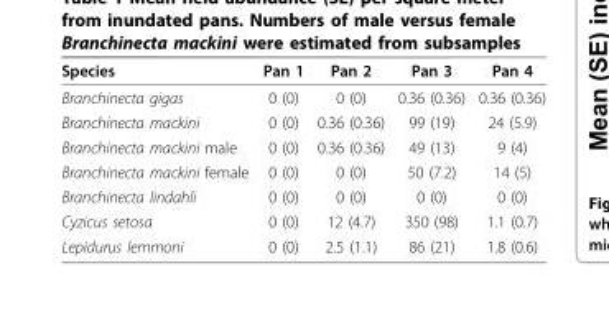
<table><thead><tr><td>Species</td><td>Pan 1</td><td>Pan 2</td><td>Pan 3</td><td>Pan 4</td></tr></thead><tbody><tr><td>Branchinecta gigas</td><td>0 (0)</td><td>0 (0)</td><td>0.36 (0.36)</td><td>0.36 (0.36)</td></tr><tr><td>Branchinecta mackini</td><td>0 (0)</td><td>0.36 (0.36)</td><td>99 (19)</td><td>24 (5.9)</td></tr><tr><td>Branchinecta mackini male</td><td>0 (0)</td><td>0.36 (0.36)</td><td>49 (13)</td><td>9 (4)</td></tr><tr><td>Branchinecta mackini female</td><td>0 (0)</td><td>0 (0)</td><td>50 (7.2)</td><td>14 (5)</td></tr><tr><td>Branchinecta lindahli</td><td>0 (0)</td><td>0 (0)</td><td>0 (0)</td><td>0 (0)</td></tr><tr><td>Cyzicus setosa</td><td>0 (0)</td><td>12 (4.7)</td><td>350 (98)</td><td>1.1 (0.7)</td></tr><tr><td>Lepidurus lemmoni</td><td>0 (0)</td><td>2.5 (1.1)</td><td>86 (21)</td><td>1.8 (0.6)</td></tr></tbody></table>